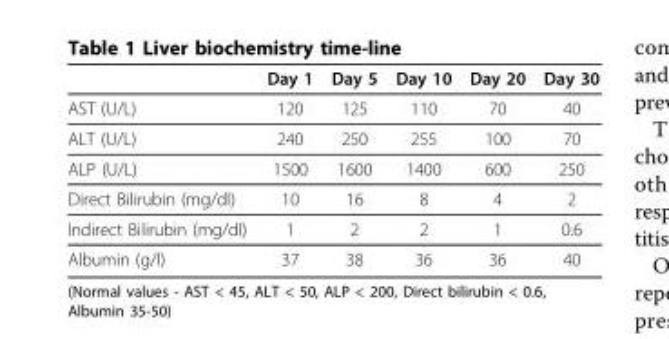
<table><thead><tr><td></td><td>Day 1</td><td>Day 5</td><td>Day 10</td><td>Day 20</td><td>Day 30</td></tr></thead><tbody><tr><td>AST (U/L)</td><td>120</td><td>125</td><td>110</td><td>70</td><td>40</td></tr><tr><td>ALT (U/L)</td><td>240</td><td>250</td><td>255</td><td>100</td><td>70</td></tr><tr><td>ALP (U/L)</td><td>1500</td><td>1600</td><td>1400</td><td>600</td><td>250</td></tr><tr><td>Direct Bilirubin (mg/dl)</td><td>10</td><td>16</td><td>8</td><td>4</td><td>2</td></tr><tr><td>Indirect Bilirubin (mg/dl)</td><td>1</td><td>2</td><td>2</td><td>1</td><td>0.6</td></tr><tr><td>Albumin (g/l)</td><td>37</td><td>38</td><td>36</td><td>36</td><td>40</td></tr></tbody></table>